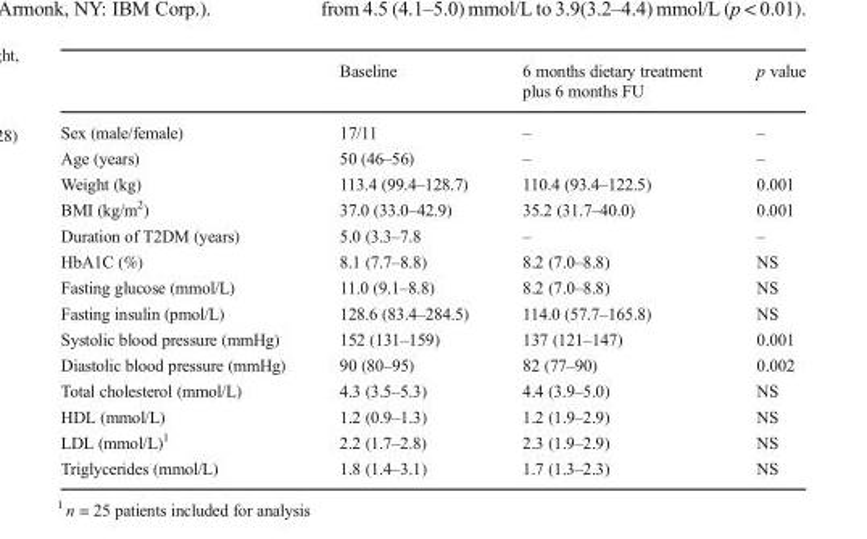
<table><thead><tr><td></td><td>Baseline</td><td>6 months dietary treatment plus 6 months FU</td><td>p value</td></tr></thead><tbody><tr><td>Sex (male/female)</td><td>17/11</td><td>–</td><td>–</td></tr><tr><td>Age (years)</td><td>50 (46–56)</td><td>–</td><td>–</td></tr><tr><td>Weight (kg)</td><td>113.4 (99.4–128.7)</td><td>110.4 (93.4–122.5)</td><td>0.001</td></tr><tr><td>BMI (kg/m<sup>2</sup>)</td><td>37.0 (33.0–42.9)</td><td>35.2 (31.7–40.0)</td><td>0.001</td></tr><tr><td>Duration of T2DM (years)</td><td>5.0 (3.3–7.8</td><td>–</td><td>–</td></tr><tr><td>HbA1C (%)</td><td>8.1 (7.7–8.8)</td><td>8.2 (7.0–8.8)</td><td>NS</td></tr><tr><td>Fasting glucose (mmol/L)</td><td>11.0 (9.1–8.8)</td><td>8.2 (7.0–8.8)</td><td>NS</td></tr><tr><td>Fasting insulin (pmol/L)</td><td>128.6 (83.4–284.5)</td><td>114.0 (57.7–165.8)</td><td>NS</td></tr><tr><td>Systolic blood pressure (mmHg)</td><td>152 (131–159)</td><td>137 (121–147)</td><td>0.001</td></tr><tr><td>Diastolic blood pressure (mmHg)</td><td>90 (80–95)</td><td>82 (77–90)</td><td>0.002</td></tr><tr><td>Total cholesterol (mmol/L)</td><td>4.3 (3.5–5.3)</td><td>4.4 (3.9–5.0)</td><td>NS</td></tr><tr><td>HDL (mmol/L)</td><td>1.2 (0.9–1.3)</td><td>1.2 (1.9–2.9)</td><td>NS</td></tr><tr><td>LDL (mmol/L)<sup>1</sup></td><td>2.2 (1.7–2.8)</td><td>2.3 (1.9–2.9)</td><td>NS</td></tr><tr><td>Triglycerides (mmol/L)</td><td>1.8 (1.4–3.1)</td><td>1.7 (1.3–2.3)</td><td>NS</td></tr></tbody></table>